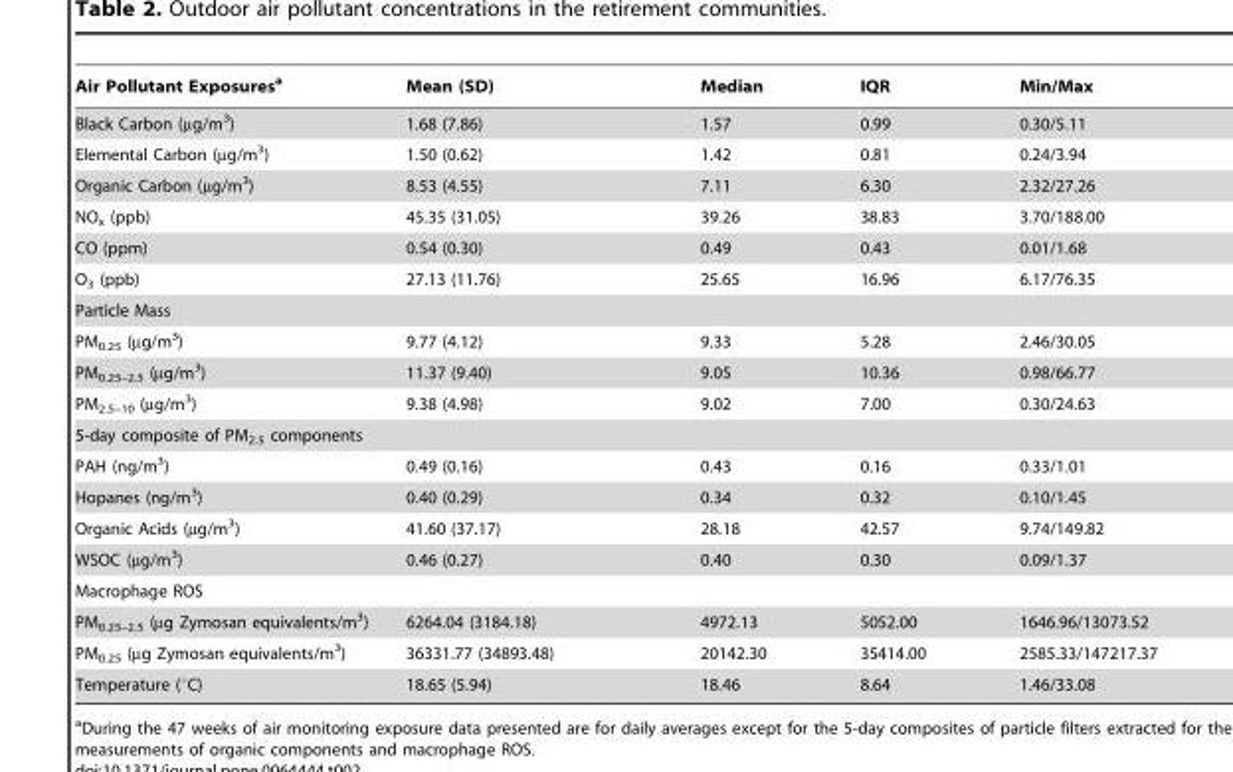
<table><thead><tr><td>Air Pollutant Exposures<sup>a</sup></td><td>Mean (SD)</td><td>Median</td><td>IQR</td><td>Min/Max</td></tr></thead><tbody><tr><td>Black Carbon (µg/m<sup>3</sup>)</td><td>1.68 (7.86)</td><td>1.57</td><td>0.99</td><td>0.30/5.11</td></tr><tr><td>Elemental Carbon (µg/m<sup>3</sup>)</td><td>1.50 (0.62)</td><td>1.42</td><td>0.81</td><td>0.24/3.94</td></tr><tr><td>Organic Carbon (µg/m<sup>3</sup>)</td><td>8.53 (4.55)</td><td>7.11</td><td>6.30</td><td>2.32/27.26</td></tr><tr><td>NO<sub>x</sub> (ppb)</td><td>45.35 (31.05)</td><td>39.26</td><td>38.83</td><td>3.70/188.00</td></tr><tr><td>CO (ppm)</td><td>0.54 (0.30)</td><td>0.49</td><td>0.43</td><td>0.01/1.68</td></tr><tr><td>O<sub>3</sub> (ppb)</td><td>27.13 (11.76)</td><td>25.65</td><td>16.96</td><td>6.17/76.35</td></tr><tr><td colspan="5">Particle Mass</td></tr><tr><td>PM<sub>0.25</sub> (µg/m<sup>3</sup>)</td><td>9.77 (4.12)</td><td>9.33</td><td>5.28</td><td>2.46/30.05</td></tr><tr><td>PM<sub>0.25–2.5</sub> (µg/m<sup>3</sup>)</td><td>11.37 (9.40)</td><td>9.05</td><td>10.36</td><td>0.98/66.77</td></tr><tr><td>PM<sub>2.5–10</sub> (µg/m<sup>3</sup>)</td><td>9.38 (4.98)</td><td>9.02</td><td>7.00</td><td>0.30/24.63</td></tr><tr><td colspan="5">5-day composite of PM<sub>2.5</sub> components</td></tr><tr><td>PAH (ng/m<sup>3</sup>)</td><td>0.49 (0.16)</td><td>0.43</td><td>0.16</td><td>0.33/1.01</td></tr><tr><td>Hopanes (ng/m<sup>3</sup>)</td><td>0.40 (0.29)</td><td>0.34</td><td>0.32</td><td>0.10/1.45</td></tr><tr><td>Organic Acids (µg/m<sup>3</sup>)</td><td>41.60 (37.17)</td><td>28.18</td><td>42.57</td><td>9.74/149.82</td></tr><tr><td>WSOC (µg/m<sup>3</sup>)</td><td>0.46 (0.27)</td><td>0.40</td><td>0.30</td><td>0.09/1.37</td></tr><tr><td colspan="5">Macrophage ROS</td></tr><tr><td>PM<sub>0.25–2.5</sub> (µg Zymosan equivalents/m<sup>3</sup>)</td><td>6264.04 (3184.18)</td><td>4972.13</td><td>5052.00</td><td>1646.96/13073.52</td></tr><tr><td>PM<sub>0.25</sub> (µg Zymosan equivalents/m<sup>3</sup>)</td><td>36331.77 (34893.48)</td><td>20142.30</td><td>35414.00</td><td>2585.33/147217.37</td></tr><tr><td>Temperature (°C)</td><td>18.65 (5.94)</td><td>18.46</td><td>8.64</td><td>1.46/33.08</td></tr></tbody></table>